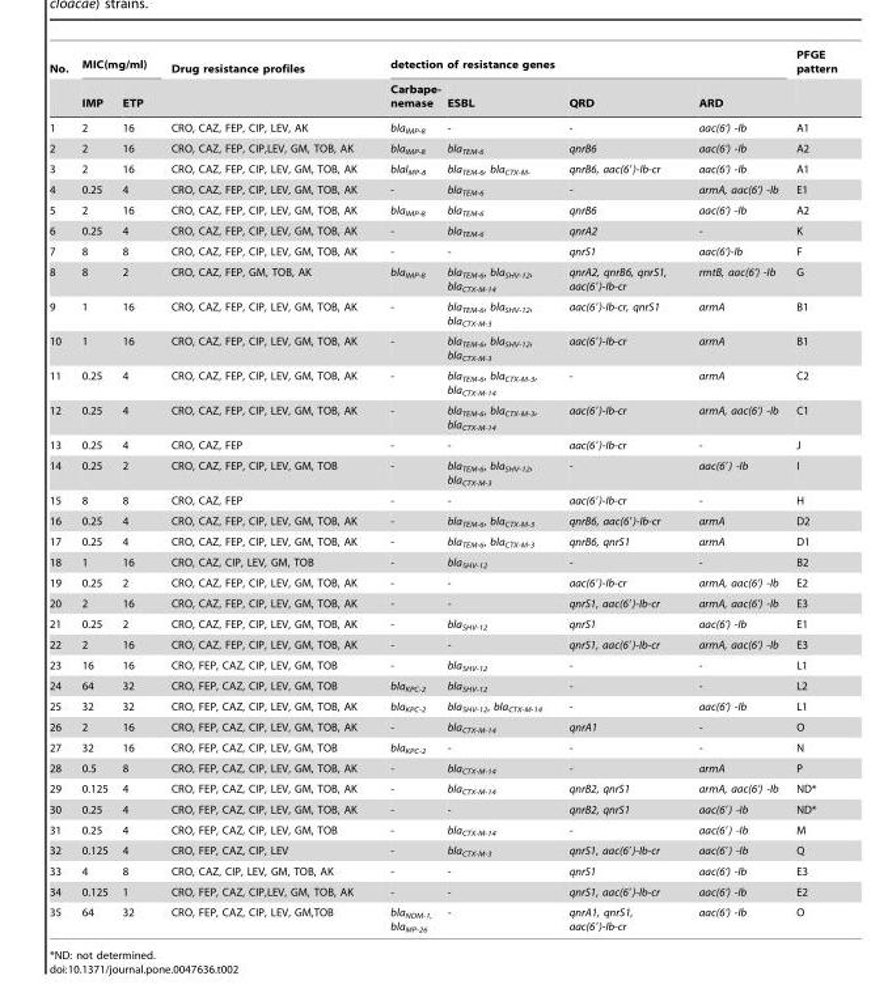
<table><thead><tr><td rowspan="2">No.</td><td colspan="2">MIC(mg/ml)</td><td rowspan="2">Drug resistance profiles</td><td colspan="4">detection of resistance genes</td><td rowspan="2">PFGE pattern</td></tr><tr><td>IMP</td><td>ETP</td><td>Carbape- nemase</td><td>ESBL</td><td>QRD</td><td>ARD</td></tr></thead><tbody><tr><td>1</td><td>2</td><td>16</td><td>CRO, CAZ, FEP, CIP, LEV, AK</td><td>bla<sub>IMP-8</sub></td><td>-</td><td>-</td><td>aac(6‘) -Ib</td><td>A1</td></tr><tr><td>2</td><td>2</td><td>16</td><td>CRO, CAZ, FEP, CIP,LEV, GM, TOB, AK</td><td>bla<sub>IMP-8</sub></td><td>bla<sub>TEM-6</sub></td><td>qnrB6</td><td>aac(6‘) -Ib</td><td>A2</td></tr><tr><td>3</td><td>2</td><td>16</td><td>CRO, CAZ, FEP, CIP, LEV, GM, TOB, AK</td><td>blaI<sub>MP-8</sub></td><td>bla<sub>TEM-6</sub>, bla<sub>CTX-M-</sub></td><td>qnrB6, aac(6′)-Ib-cr</td><td>aac(6‘) -Ib</td><td>A1</td></tr><tr><td>4</td><td>0.25</td><td>4</td><td>CRO, CAZ, FEP, CIP, LEV, GM, TOB, AK</td><td>-</td><td>bla<sub>TEM-6</sub></td><td>-</td><td>armA, aac(6‘) -Ib</td><td>E1</td></tr><tr><td>5</td><td>2</td><td>16</td><td>CRO, CAZ, FEP, CIP, LEV, GM, TOB, AK</td><td>bla<sub>IMP-8</sub></td><td>bla<sub>TEM-6</sub></td><td>qnrB6</td><td>aac(6‘) -Ib</td><td>A2</td></tr><tr><td>6</td><td>0.25</td><td>4</td><td>CRO, CAZ, FEP, CIP, LEV, GM, TOB, AK</td><td>-</td><td>bla<sub>TEM-6</sub></td><td>qnrA2</td><td>-</td><td>K</td></tr><tr><td>7</td><td>8</td><td>8</td><td>CRO, CAZ, FEP, CIP, LEV, GM, TOB, AK</td><td>-</td><td>-</td><td>qnrS1</td><td>aac(6‘)-Ib</td><td>F</td></tr><tr><td>8</td><td>8</td><td>2</td><td>CRO, CAZ, FEP, GM, TOB, AK</td><td>bla<sub>IMP-8</sub></td><td>bla<sub>TEM-6</sub>, bla<sub>SHV-12</sub>, bla<sub>CTX-M-14</sub></td><td>qnrA2, qnrB6, qnrS1, aac(6′)-Ib-cr</td><td>rmtB, aac(6‘) -Ib</td><td>G</td></tr><tr><td>9</td><td>1</td><td>16</td><td>CRO, CAZ, FEP, CIP, LEV, GM, TOB, AK</td><td>-</td><td>bla<sub>TEM-6</sub>, bla<sub>SHV-12</sub>, bla<sub>CTX-M-3</sub></td><td>aac(6′)-Ib-cr, qnrS1</td><td>armA</td><td>B1</td></tr><tr><td>10</td><td>1</td><td>16</td><td>CRO, CAZ, FEP, CIP, LEV, GM, TOB, AK</td><td>-</td><td>bla<sub>TEM-6</sub>, bla<sub>SHV-12</sub>, bla<sub>CTX-M-3</sub></td><td>aac(6′)-Ib-cr</td><td>armA</td><td>B1</td></tr><tr><td>11</td><td>0.25</td><td>4</td><td>CRO, CAZ, FEP, CIP, LEV, GM, TOB, AK</td><td>-</td><td>bla<sub>TEM-6</sub>, bla<sub>CTX-M-3</sub>, bla<sub>CTX-M-14</sub></td><td>-</td><td>armA</td><td>C2</td></tr><tr><td>12</td><td>0.25</td><td>4</td><td>CRO, CAZ, FEP, CIP, LEV, GM, TOB, AK</td><td>-</td><td>bla<sub>TEM-6</sub>, bla<sub>CTX-M-3</sub>, bla<sub>CTX-M-14</sub></td><td>aac(6′)-Ib-cr</td><td>armA, aac(6‘) -Ib</td><td>C1</td></tr><tr><td>13</td><td>0.25</td><td>4</td><td>CRO, CAZ, FEP</td><td>-</td><td>-</td><td>aac(6′)-Ib-cr</td><td>-</td><td>J</td></tr><tr><td>14</td><td>0.25</td><td>2</td><td>CRO, CAZ, FEP, CIP, LEV, GM, TOB</td><td>-</td><td>bla<sub>TEM-6</sub>, bla<sub>SHV-12</sub>, bla<sub>CTX-M-3</sub></td><td>-</td><td>aac(6′) -Ib</td><td>I</td></tr><tr><td>15</td><td>8</td><td>8</td><td>CRO, CAZ, FEP</td><td>-</td><td>-</td><td>aac(6′)-Ib-cr</td><td>-</td><td>H</td></tr><tr><td>16</td><td>0.25</td><td>4</td><td>CRO, CAZ, FEP, CIP, LEV, GM, TOB, AK</td><td>-</td><td>bla<sub>TEM-6</sub>, bla<sub>CTX-M-3</sub></td><td>qnrB6, aac(6′)-Ib-cr</td><td>armA</td><td>D2</td></tr><tr><td>17</td><td>0.25</td><td>4</td><td>CRO, CAZ, FEP, CIP, LEV, GM, TOB, AK</td><td>-</td><td>bla<sub>TEM-6</sub>, bla<sub>CTX-M-3</sub></td><td>qnrB6, qnrS1</td><td>armA</td><td>D1</td></tr><tr><td>18</td><td>1</td><td>16</td><td>CRO, CAZ, CIP, LEV, GM, TOB</td><td>-</td><td>bla<sub>SHV-12</sub></td><td>-</td><td>-</td><td>B2</td></tr><tr><td>19</td><td>0.25</td><td>2</td><td>CRO, CAZ, FEP, CIP, LEV, GM, TOB, AK</td><td>-</td><td>-</td><td>aac(6′)-Ib-cr</td><td>armA, aac(6‘) -Ib</td><td>E2</td></tr><tr><td>20</td><td>2</td><td>16</td><td>CRO, CAZ, FEP, CIP, LEV, GM, TOB, AK</td><td>-</td><td>-</td><td>qnrS1, aac(6′)-Ib-cr</td><td>armA, aac(6‘) -Ib</td><td>E3</td></tr><tr><td>21</td><td>0.25</td><td>2</td><td>CRO, CAZ, FEP, CIP, LEV, GM, TOB, AK</td><td>-</td><td>bla<sub>SHV-12</sub></td><td>qnrS1</td><td>aac(6‘) -Ib</td><td>E1</td></tr><tr><td>22</td><td>2</td><td>16</td><td>CRO, CAZ, FEP, CIP, LEV, GM, TOB, AK</td><td>-</td><td>-</td><td>qnrS1, aac(6′)-Ib-cr</td><td>armA, aac(6‘) -Ib</td><td>E3</td></tr><tr><td>23</td><td>16</td><td>16</td><td>CRO, FEP, CAZ, CIP, LEV, GM, TOB</td><td>-</td><td>bla<sub>SHV-12</sub></td><td>-</td><td>-</td><td>L1</td></tr><tr><td>24</td><td>64</td><td>32</td><td>CRO, FEP, CAZ, CIP, LEV, GM, TOB</td><td>bla<sub>KPC-2</sub></td><td>bla<sub>SHV-12</sub></td><td>-</td><td>-</td><td>L2</td></tr><tr><td>25</td><td>32</td><td>32</td><td>CRO, FEP, CAZ, CIP, LEV, GM, TOB, AK</td><td>bla<sub>KPC-2</sub></td><td>bla<sub>SHV-12</sub>, bla<sub>CTX-M-14</sub></td><td>-</td><td>aac(6‘) -Ib</td><td>L1</td></tr><tr><td>26</td><td>2</td><td>16</td><td>CRO, FEP, CAZ, CIP, LEV, GM, TOB, AK</td><td>-</td><td>bla<sub>CTX-M-14</sub></td><td>qnrA1</td><td>-</td><td>O</td></tr><tr><td>27</td><td>32</td><td>16</td><td>CRO, FEP, CAZ, CIP, LEV, GM, TOB</td><td>bla<sub>KPC-2</sub></td><td>-</td><td>-</td><td>-</td><td>N</td></tr><tr><td>28</td><td>0.5</td><td>8</td><td>CRO, FEP, CAZ, CIP, LEV, GM, TOB, AK</td><td>-</td><td>bla<sub>CTX-M-14</sub></td><td>-</td><td>armA</td><td>P</td></tr><tr><td>29</td><td>0.125</td><td>4</td><td>CRO, FEP, CAZ, CIP, LEV, GM, TOB, AK</td><td>-</td><td>bla<sub>CTX-M-14</sub></td><td>qnrB2, qnrS1</td><td>armA, aac(6‘) -Ib</td><td>ND*</td></tr><tr><td>30</td><td>0.25</td><td>4</td><td>CRO, FEP, CAZ, CIP, LEV, GM, TOB, AK</td><td>-</td><td>-</td><td>qnrB2, qnrS1</td><td>aac(6′) -Ib</td><td>ND*</td></tr><tr><td>31</td><td>0.25</td><td>4</td><td>CRO, FEP, CAZ, CIP, LEV, GM, TOB</td><td>-</td><td>bla<sub>CTX-M-14</sub></td><td>-</td><td>aac(6′) -Ib</td><td>M</td></tr><tr><td>32</td><td>0.125</td><td>4</td><td>CRO, FEP, CAZ, CIP, LEV</td><td>-</td><td>bla<sub>CTX-M-3</sub></td><td>qnrS1, aac(6′)-Ib-cr</td><td>aac(6′) -Ib</td><td>Q</td></tr><tr><td>33</td><td>4</td><td>8</td><td>CRO, CAZ, CIP, LEV, GM, TOB, AK</td><td>-</td><td>-</td><td>qnrS1</td><td>aac(6‘) -Ib</td><td>E3</td></tr><tr><td>34</td><td>0.125</td><td>1</td><td>CRO, FEP, CAZ, CIP,LEV, GM, TOB, AK</td><td>-</td><td>-</td><td>qnrS1, aac(6′)-Ib-cr</td><td>aac(6‘) -Ib</td><td>E2</td></tr><tr><td>35</td><td>64</td><td>32</td><td>CRO, FEP, CAZ, CIP, LEV, GM,TOB</td><td>bla<sub>NDM-1,</sub> bla<sub>MP-26</sub></td><td>-</td><td>qnrA1, qnrS1, aac(6′)-Ib-cr</td><td>aac(6‘) -Ib</td><td>O</td></tr></tbody></table>